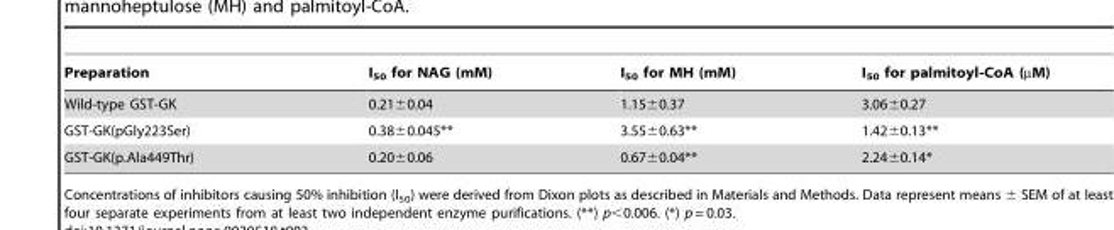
<table><thead><tr><td>Preparation</td><td>I<sub>50</sub> for NAG (mM)</td><td>I<sub>50</sub> for MH (mM)</td><td>I<sub>50</sub> for palmitoyl-CoA (µM)</td></tr></thead><tbody><tr><td>Wild-type GST-GK</td><td>0.21±0.04</td><td>1.15±0.37</td><td>3.06±0.27</td></tr><tr><td>GST-GK(pGly223Ser)</td><td>0.38±0.045**</td><td>3.55±0.63**</td><td>1.42±0.13**</td></tr><tr><td>GST-GK(p.Ala449Thr)</td><td>0.20±0.06</td><td>0.67±0.04**</td><td>2.24±0.14*</td></tr></tbody></table>